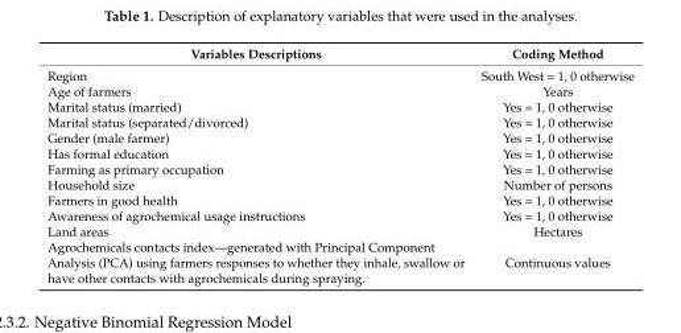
<table><thead><tr><td>Variables Descriptions</td><td>Coding Method</td></tr></thead><tbody><tr><td>Region</td><td>South West = 1, 0 otherwise</td></tr><tr><td>Age of farmers</td><td>Years</td></tr><tr><td>Marital status (married)</td><td>Yes = 1, 0 otherwise</td></tr><tr><td>Marital status (separated/divorced)</td><td>Yes = 1, 0 otherwise</td></tr><tr><td>Gender (male farmer)</td><td>Yes = 1, 0 otherwise</td></tr><tr><td>Has formal education</td><td>Yes = 1, 0 otherwise</td></tr><tr><td>Farming as primary occupation</td><td>Yes = 1, 0 otherwise</td></tr><tr><td>Household size</td><td>Number of persons</td></tr><tr><td>Farmers in good health</td><td>Yes = 1, 0 otherwise</td></tr><tr><td>Awareness of agrochemical usage instructions</td><td>Yes = 1, 0 otherwise</td></tr><tr><td>Land areas</td><td>Hectares</td></tr><tr><td>Agrochemicals contacts index—generated with Principal Component Analysis (PCA) using farmers responses to whether they inhale, swallow or have other contacts with agrochemicals during spraying.</td><td>Continuous values</td></tr></tbody></table>